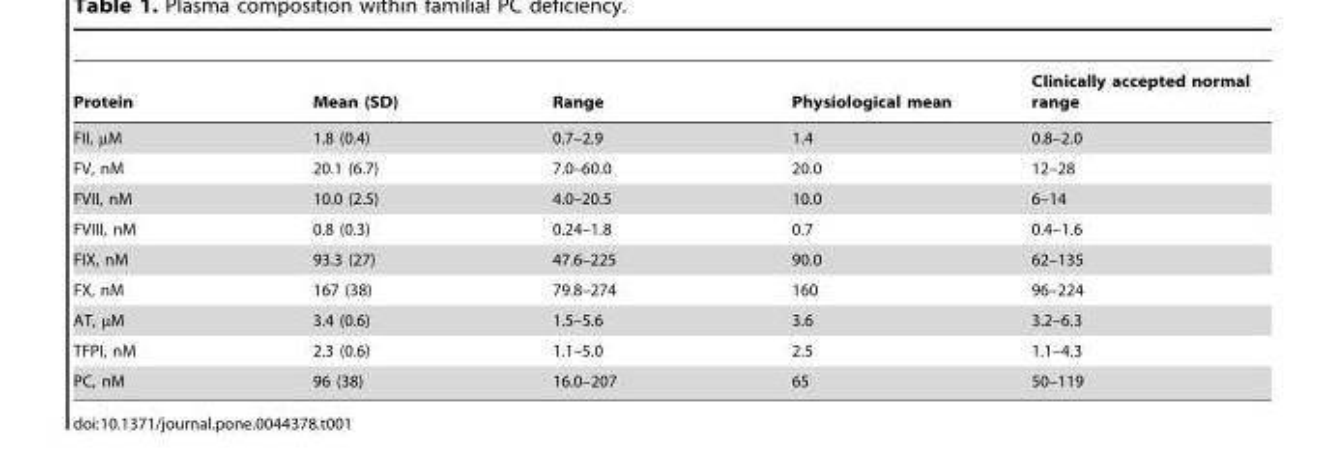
<table><thead><tr><td>Protein</td><td>Mean (SD)</td><td>Range</td><td>Physiological mean</td><td>Clinically accepted normal range</td></tr></thead><tbody><tr><td>FII, µM</td><td>1.8 (0.4)</td><td>0.7–2.9</td><td>1.4</td><td>0.8–2.0</td></tr><tr><td>FV, nM</td><td>20.1 (6.7)</td><td>7.0–60.0</td><td>20.0</td><td>12–28</td></tr><tr><td>FVII, nM</td><td>10.0 (2.5)</td><td>4.0–20.5</td><td>10.0</td><td>6–14</td></tr><tr><td>FVIII, nM</td><td>0.8 (0.3)</td><td>0.24–1.8</td><td>0.7</td><td>0.4–1.6</td></tr><tr><td>FIX, nM</td><td>93.3 (27)</td><td>47.6–225</td><td>90.0</td><td>62–135</td></tr><tr><td>FX, nM</td><td>167 (38)</td><td>79.8–274</td><td>160</td><td>96–224</td></tr><tr><td>AT, µM</td><td>3.4 (0.6)</td><td>1.5–5.6</td><td>3.6</td><td>3.2–6.3</td></tr><tr><td>TFPI, nM</td><td>2.3 (0.6)</td><td>1.1–5.0</td><td>2.5</td><td>1.1–4.3</td></tr><tr><td>PC, nM</td><td>96 (38)</td><td>16.0–207</td><td>65</td><td>50–119</td></tr></tbody></table>